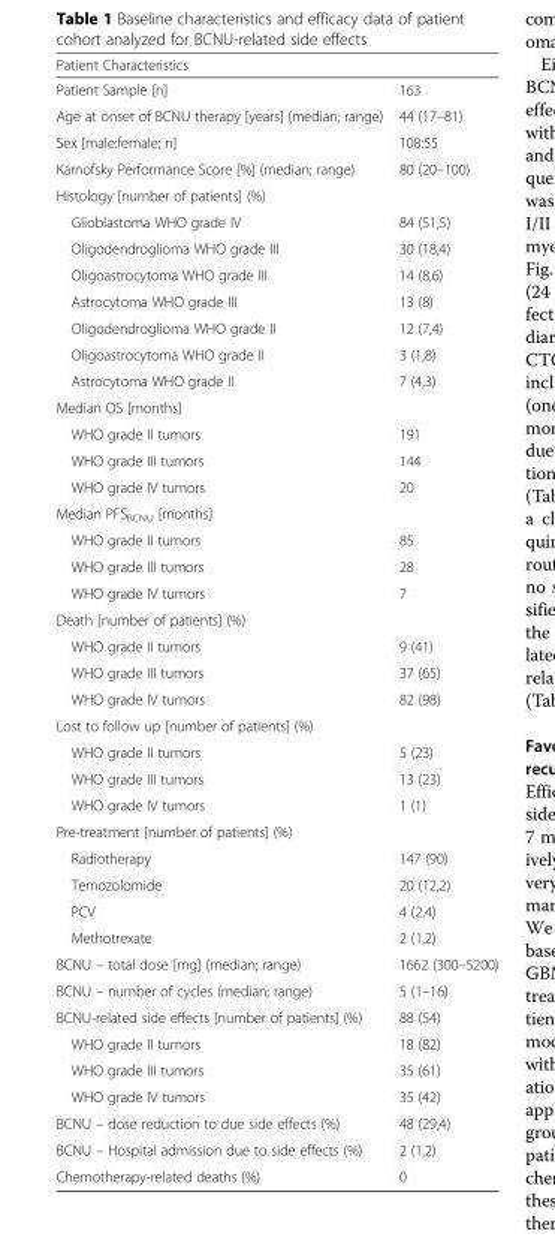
<table><thead><tr><td>Patient Characteristics</td><td></td></tr></thead><tbody><tr><td>Patient Sample [n]</td><td>163</td></tr><tr><td>Age at onset of BCNU therapy [years] (median; range)</td><td>44 (17–81)</td></tr><tr><td>Sex [male:female; n]</td><td>108:55</td></tr><tr><td>Karnofsky Performance Score [%] (median; range)</td><td>80 (20–100)</td></tr><tr><td colspan="2">Histology [number of patients] (%)</td></tr><tr><td>Glioblastoma WHO grade IV</td><td>84 (51,5)</td></tr><tr><td>Oligodendroglioma WHO grade III</td><td>30 (18,4)</td></tr><tr><td>Oligoastrocytoma WHO grade III</td><td>14 (8,6)</td></tr><tr><td>Astrocytoma WHO grade III</td><td>13 (8)</td></tr><tr><td>Oligodendroglioma WHO grade II</td><td>12 (7,4)</td></tr><tr><td>Oligoastrocytoma WHO grade II</td><td>3 (1,8)</td></tr><tr><td>Astrocytoma WHO grade II</td><td>7 (4,3)</td></tr><tr><td colspan="2">Median OS [months]</td></tr><tr><td>WHO grade II tumors</td><td>191</td></tr><tr><td>WHO grade III tumors</td><td>144</td></tr><tr><td>WHO grade IV tumors</td><td>20</td></tr><tr><td colspan="2">Median PFS<sub>BCNU</sub> [months]</td></tr><tr><td>WHO grade II tumors</td><td>85</td></tr><tr><td>WHO grade III tumors</td><td>28</td></tr><tr><td>WHO grade IV tumors</td><td>7</td></tr><tr><td colspan="2">Death [number of patients] (%)</td></tr><tr><td>WHO grade II tumors</td><td>9 (41)</td></tr><tr><td>WHO grade III tumors</td><td>37 (65)</td></tr><tr><td>WHO grade IV tumors</td><td>82 (98)</td></tr><tr><td colspan="2">Lost to follow up [number of patients] (%)</td></tr><tr><td>WHO grade II tumors</td><td>5 (23)</td></tr><tr><td>WHO grade III tumors</td><td>13 (23)</td></tr><tr><td>WHO grade IV tumors</td><td>1 (1)</td></tr><tr><td colspan="2">Pre-treatment [number of patients] (%)</td></tr><tr><td>Radiotherapy</td><td>147 (90)</td></tr><tr><td>Temozolomide</td><td>20 (12,2)</td></tr><tr><td>PCV</td><td>4 (2,4)</td></tr><tr><td>Methotrexate</td><td>2 (1,2)</td></tr><tr><td>BCNU – total dose [mg] (median; range)</td><td>1662 (300–5200)</td></tr><tr><td>BCNU – number of cycles (median; range)</td><td>5 (1–16)</td></tr><tr><td>BCNU-related side effects [number of patients] (%)</td><td>88 (54)</td></tr><tr><td>WHO grade II tumors</td><td>18 (82)</td></tr><tr><td>WHO grade III tumors</td><td>35 (61)</td></tr><tr><td>WHO grade IV tumors</td><td>35 (42)</td></tr><tr><td>BCNU – dose reduction to due side effects (%)</td><td>48 (29,4)</td></tr><tr><td>BCNU – Hospital admission due to side effects (%)</td><td>2 (1,2)</td></tr><tr><td>Chemotherapy-related deaths (%)</td><td>0</td></tr></tbody></table>